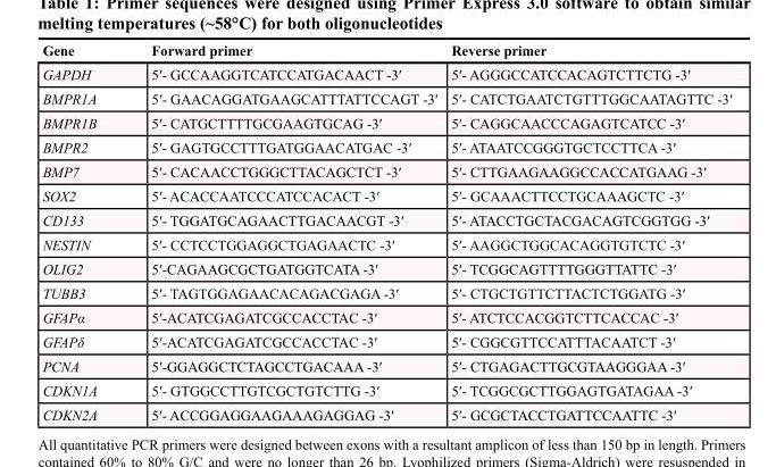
<table><thead><tr><td>Gene</td><td>Forward primer</td><td>Reverse primer</td></tr></thead><tbody><tr><td>GAPDH</td><td>5′- GCCAAGGTCATCCATGACAACT -3′</td><td>5′- AGGGCCATCCACAGTCTTCTG -3′</td></tr><tr><td>BMPR1A</td><td>5′- GAACAGGATGAAGCATTTATTCCAGT -3′</td><td>5′- CATCTGAATCTGTTTGGCAATAGTTC -3′</td></tr><tr><td>BMPR1B</td><td>5′- CATGCTTTTGCGAAGTGCAG -3′</td><td>5′- CAGGCAACCCAGAGTCATCC -3′</td></tr><tr><td>BMPR2</td><td>5′- GAGTGCCTTTGATGGAACATGAC -3′</td><td>5′- ATAATCCGGGTGCTCCTTCA -3′</td></tr><tr><td>BMP7</td><td>5′- CACAACCTGGGCTTACAGCTCT -3′</td><td>5′- CTTGAAGAAGGCCACCATGAAG -3′</td></tr><tr><td>SOX2</td><td>5′- ACACCAATCCCATCCACACT -3′</td><td>5′- GCAAACTTCCTGCAAAGCTC -3′</td></tr><tr><td>CD133</td><td>5′- TGGATGCAGAACTTGACAACGT -3′</td><td>5′- ATACCTGCTACGACAGTCGGTGG -3′</td></tr><tr><td>NESTIN</td><td>5′- CCTCCTGGAGGCTGAGAACTC -3′</td><td>5′- AAGGCTGGCACAGGTGTCTC -3′</td></tr><tr><td>OLIG2</td><td>5′-CAGAAGCGCTGATGGTCATA -3′</td><td>5′- TCGGCAGTTTTGGGTTATTC -3′</td></tr><tr><td>TUBB3</td><td>5′- TAGTGGAGAACACAGACGAGA -3′</td><td>5′- CTGCTGTTCTTACTCTGGATG -3′</td></tr><tr><td>GFAPα</td><td>5′-ACATCGAGATCGCCACCTAC -3′</td><td>5′- ATCTCCACGGTCTTCACCAC -3′</td></tr><tr><td>GFAPδ</td><td>5′-ACATCGAGATCGCCACCTAC -3′</td><td>5′- CGGCGTTCCATTTACAATCT -3′</td></tr><tr><td>PCNA</td><td>5′-GGAGGCTCTAGCCTGACAAA -3′</td><td>5′- CTGAGACTTGCGTAAGGGAA -3′</td></tr><tr><td>CDKN1A</td><td>5′- GTGGCCTTGTCGCTGTCTTG -3′</td><td>5′- TCGGCGCTTGGAGTGATAGAA -3′</td></tr><tr><td>CDKN2A</td><td>5′- ACCGGAGGAAGAAAGAGGAG -3′</td><td>5′- GCGCTACCTGATTCCAATTC -3′</td></tr></tbody></table>